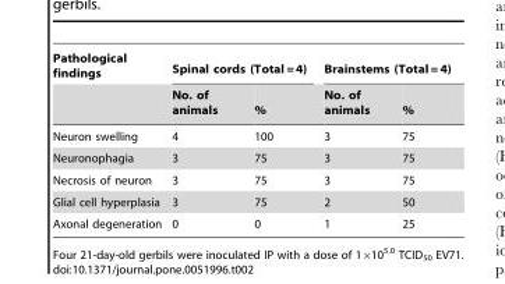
<table><thead><tr><td rowspan="2">Pathological findings</td><td colspan="2">Spinal cords (Total = 4)</td><td colspan="2">Brainstems (Total = 4)</td></tr><tr><td>No. of animals</td><td>%</td><td>No. of animals</td><td>%</td></tr></thead><tbody><tr><td>Neuron swelling</td><td>4</td><td>100</td><td>3</td><td>75</td></tr><tr><td>Neuronophagia</td><td>3</td><td>75</td><td>3</td><td>75</td></tr><tr><td>Necrosis of neuron</td><td>3</td><td>75</td><td>3</td><td>75</td></tr><tr><td>Glial cell hyperplasia</td><td>3</td><td>75</td><td>2</td><td>50</td></tr><tr><td>Axonal degeneration</td><td>0</td><td>0</td><td>1</td><td>25</td></tr></tbody></table>